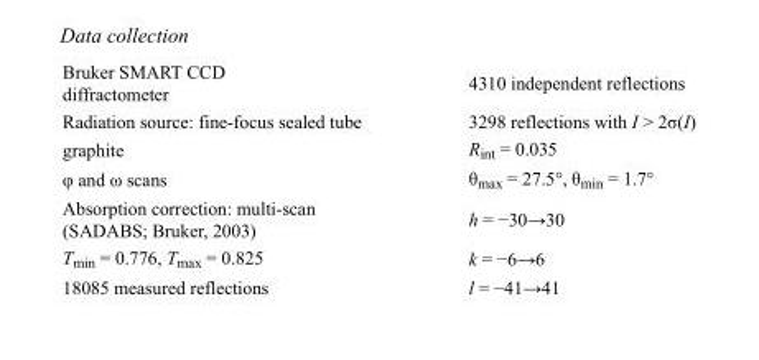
<table><tbody><tr><td>Bruker SMART CCD diffractometer</td><td>4310 independent reflections</td></tr><tr><td>Radiation source: fine-focus sealed tube</td><td>3298 reflections with I &gt; 2σ(I)</td></tr><tr><td>graphite</td><td>R<sub>int</sub> = 0.035</td></tr><tr><td>φ and ω scans</td><td>θ<sub>max</sub> = 27.5°, θ<sub>min</sub> = 1.7°</td></tr><tr><td>Absorption correction: multi-scan (SADABS; Bruker, 2003)</td><td>h = −30→30</td></tr><tr><td>T<sub>min</sub> = 0.776, T<sub>max</sub> = 0.825</td><td>k = −6→6</td></tr><tr><td>18085 measured reflections</td><td>l = −41→41</td></tr></tbody></table>